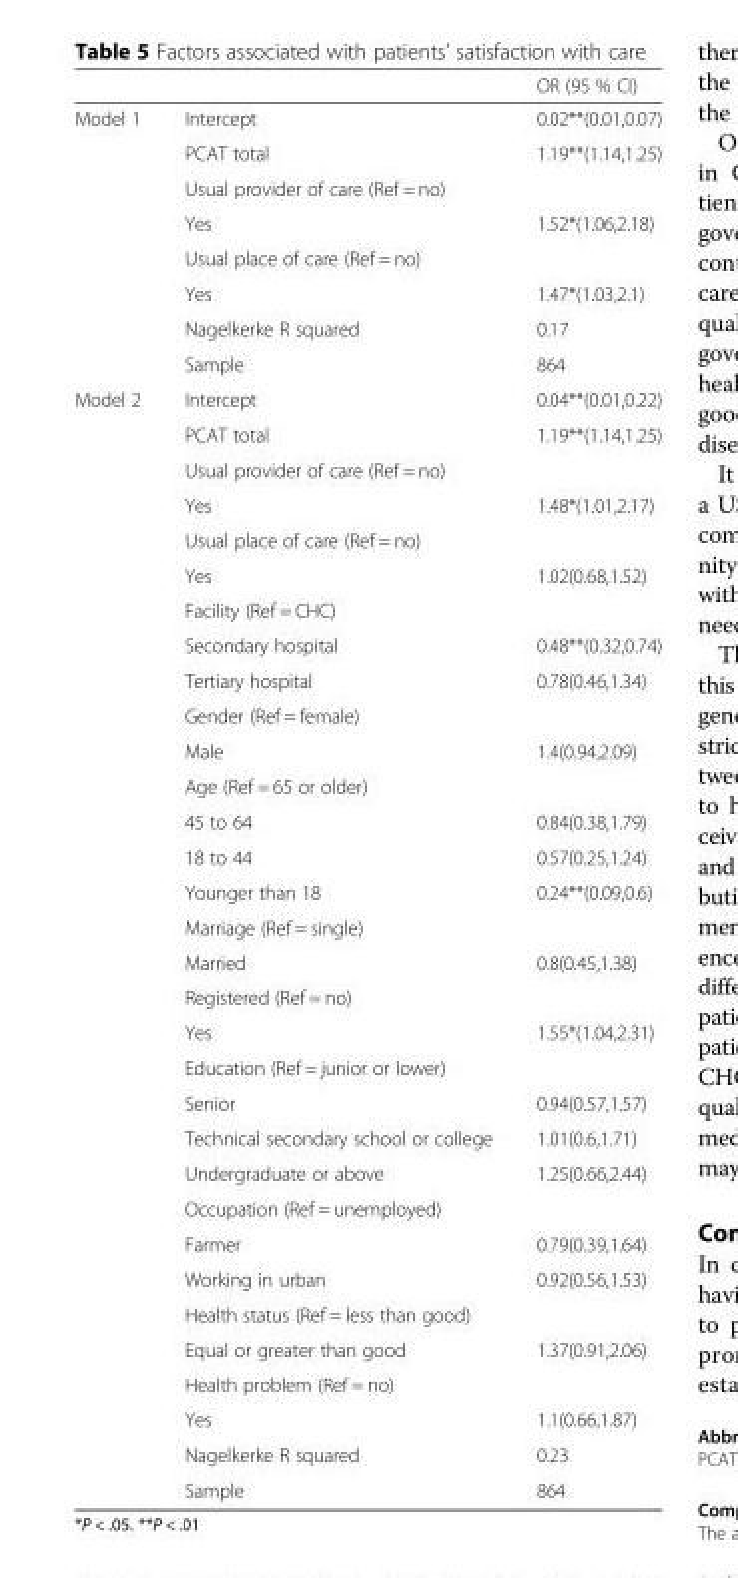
<table><thead><tr><td></td><td></td><td>OR (95 % CI)</td></tr></thead><tbody><tr><td rowspan="8">Model 1</td><td>Intercept</td><td>0.02**(0.01,0.07)</td></tr><tr><td>PCAT total</td><td>1.19**(1.14,1.25)</td></tr><tr><td>Usual provider of care (Ref = no)</td><td></td></tr><tr><td>Yes</td><td>1.52*(1.06,2.18)</td></tr><tr><td>Usual place of care (Ref = no)</td><td></td></tr><tr><td>Yes</td><td>1.47*(1.03,2.1)</td></tr><tr><td>Nagelkerke R squared</td><td>0.17</td></tr><tr><td>Sample</td><td>864</td></tr><tr><td rowspan="32">Model 2</td><td>Intercept</td><td>0.04**(0.01,0.22)</td></tr><tr><td>PCAT total</td><td>1.19**(1.14,1.25)</td></tr><tr><td>Usual provider of care (Ref = no)</td><td></td></tr><tr><td>Yes</td><td>1.48*(1.01,2.17)</td></tr><tr><td>Usual place of care (Ref = no)</td><td></td></tr><tr><td>Yes</td><td>1.02(0.68,1.52)</td></tr><tr><td>Facility (Ref = CHC)</td><td></td></tr><tr><td>Secondary hospital</td><td>0.48**(0.32,0.74)</td></tr><tr><td>Tertiary hospital</td><td>0.78(0.46,1.34)</td></tr><tr><td>Gender (Ref = female)</td><td></td></tr><tr><td>Male</td><td>1.4(0.94,2.09)</td></tr><tr><td>Age (Ref = 65 or older)</td><td></td></tr><tr><td>45 to 64</td><td>0.84(0.38,1.79)</td></tr><tr><td>18 to 44</td><td>0.57(0.25,1.24)</td></tr><tr><td>Younger than 18</td><td>0.24**(0.09,0.6)</td></tr><tr><td>Marriage (Ref = single)</td><td></td></tr><tr><td>Married</td><td>0.8(0.45,1.38)</td></tr><tr><td>Registered (Ref = no)</td><td></td></tr><tr><td>Yes</td><td>1.55*(1.04,2.31)</td></tr><tr><td>Education (Ref = junior or lower)</td><td></td></tr><tr><td>Senior</td><td>0.94(0.57,1.57)</td></tr><tr><td>Technical secondary school or college</td><td>1.01(0.6,1.71)</td></tr><tr><td>Undergraduate or above</td><td>1.25(0.66,2.44)</td></tr><tr><td>Occupation (Ref = unemployed)</td><td></td></tr><tr><td>Farmer</td><td>0.79(0.39,1.64)</td></tr><tr><td>Working in urban</td><td>0.92(0.56,1.53)</td></tr><tr><td>Health status (Ref = less than good)</td><td></td></tr><tr><td>Equal or greater than good</td><td>1.37(0.91,2.06)</td></tr><tr><td>Health problem (Ref = no)</td><td></td></tr><tr><td>Yes</td><td>1.1(0.66,1.87)</td></tr><tr><td>Nagelkerke R squared</td><td>0.23</td></tr><tr><td>Sample</td><td>864</td></tr></tbody></table>